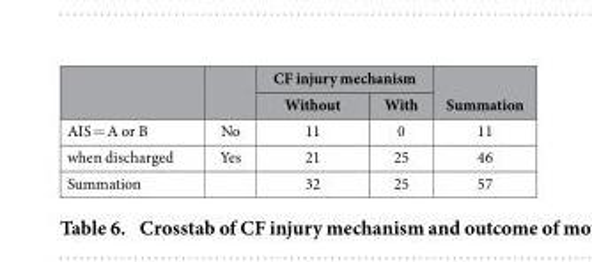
<table><thead><tr><td rowspan="2"></td><td rowspan="2"></td><td colspan="2">CF injury mechanism</td><td rowspan="2">Summation</td></tr><tr><td>Without</td><td>With</td></tr></thead><tbody><tr><td>AIS = A or B</td><td>No</td><td>11</td><td>0</td><td>11</td></tr><tr><td>when discharged</td><td>Yes</td><td>21</td><td>25</td><td>46</td></tr><tr><td>Summation</td><td></td><td>32</td><td>25</td><td>57</td></tr></tbody></table>